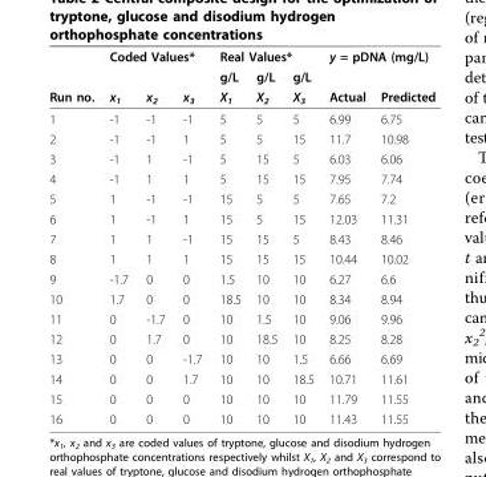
<table><thead><tr><td rowspan="3">Run no.</td><td colspan="3">Coded Values*</td><td colspan="3">Real Values*</td><td colspan="2">y = pDNA (mg/L)</td></tr><tr><td rowspan="2">x1</td><td rowspan="2">x2</td><td rowspan="2">x3</td><td rowspan="2">g/L X1</td><td rowspan="2">g/L X2</td><td rowspan="2">g/L X3</td><td rowspan="2">Actual</td><td rowspan="2">Predicted</td></tr><tr></tr></thead><tbody><tr><td>1</td><td>-1</td><td>-1</td><td>-1</td><td>5</td><td>5</td><td>5</td><td>6.99</td><td>6.75</td></tr><tr><td>2</td><td>-1</td><td>-1</td><td>1</td><td>5</td><td>5</td><td>15</td><td>11.7</td><td>10.98</td></tr><tr><td>3</td><td>-1</td><td>1</td><td>-1</td><td>5</td><td>15</td><td>5</td><td>6.03</td><td>6.06</td></tr><tr><td>4</td><td>-1</td><td>1</td><td>1</td><td>5</td><td>15</td><td>15</td><td>7.95</td><td>7.74</td></tr><tr><td>5</td><td>1</td><td>-1</td><td>-1</td><td>15</td><td>5</td><td>5</td><td>7.65</td><td>7.2</td></tr><tr><td>6</td><td>1</td><td>-1</td><td>1</td><td>15</td><td>5</td><td>15</td><td>12.03</td><td>11.31</td></tr><tr><td>7</td><td>1</td><td>1</td><td>-1</td><td>15</td><td>15</td><td>5</td><td>8.43</td><td>8.46</td></tr><tr><td>8</td><td>1</td><td>1</td><td>1</td><td>15</td><td>15</td><td>15</td><td>10.44</td><td>10.02</td></tr><tr><td>9</td><td>-1.7</td><td>0</td><td>0</td><td>1.5</td><td>10</td><td>10</td><td>6.27</td><td>6.6</td></tr><tr><td>10</td><td>1.7</td><td>0</td><td>0</td><td>18.5</td><td>10</td><td>10</td><td>8.34</td><td>8.94</td></tr><tr><td>11</td><td>0</td><td>-1.7</td><td>0</td><td>10</td><td>1.5</td><td>10</td><td>9.06</td><td>9.96</td></tr><tr><td>12</td><td>0</td><td>1.7</td><td>0</td><td>10</td><td>18.5</td><td>10</td><td>8.25</td><td>8.28</td></tr><tr><td>13</td><td>0</td><td>0</td><td>-1.7</td><td>10</td><td>10</td><td>1.5</td><td>6.66</td><td>6.69</td></tr><tr><td>14</td><td>0</td><td>0</td><td>1.7</td><td>10</td><td>10</td><td>18.5</td><td>10.71</td><td>11.61</td></tr><tr><td>15</td><td>0</td><td>0</td><td>0</td><td>10</td><td>10</td><td>10</td><td>11.79</td><td>11.55</td></tr><tr><td>16</td><td>0</td><td>0</td><td>0</td><td>10</td><td>10</td><td>10</td><td>11.43</td><td>11.55</td></tr></tbody></table>